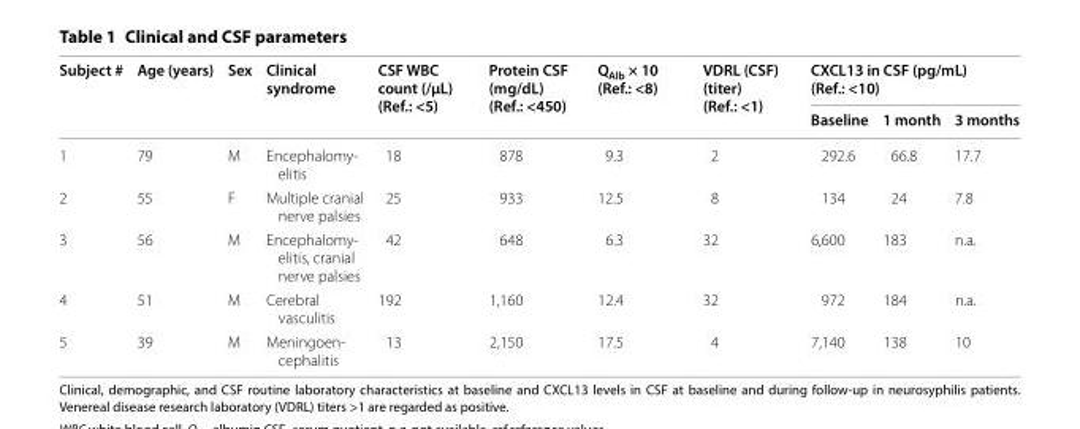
<table><thead><tr><td rowspan="2">Subject #</td><td rowspan="2">Age (years)</td><td rowspan="2">Sex</td><td rowspan="2">Clinical syndrome</td><td rowspan="2">CSF WBC count (/μL) (Ref.: &lt;5)</td><td rowspan="2">Protein CSF (mg/dL) (Ref.: &lt;450)</td><td rowspan="2">Q<sub>Alb</sub> × 10 (Ref.: &lt;8)</td><td rowspan="2">VDRL (CSF) (titer) (Ref.: &lt;1)</td><td colspan="3">CXCL13 in CSF (pg/mL) (Ref.: &lt;10)</td></tr><tr><td>Baseline</td><td>1 month</td><td>3 months</td></tr></thead><tbody><tr><td>1</td><td>79</td><td>M</td><td>Encephalomy‑ elitis</td><td>18</td><td>878</td><td>9.3</td><td>2</td><td>292.6</td><td>66.8</td><td>17.7</td></tr><tr><td>2</td><td>55</td><td>F</td><td>Multiple cranial nerve palsies</td><td>25</td><td>933</td><td>12.5</td><td>8</td><td>134</td><td>24</td><td>7.8</td></tr><tr><td>3</td><td>56</td><td>M</td><td>Encephalomy‑ elitis, cranial nerve palsies</td><td>42</td><td>648</td><td>6.3</td><td>32</td><td>6,600</td><td>183</td><td>n.a.</td></tr><tr><td>4</td><td>51</td><td>M</td><td>Cerebral vasculitis</td><td>192</td><td>1,160</td><td>12.4</td><td>32</td><td>972</td><td>184</td><td>n.a.</td></tr><tr><td>5</td><td>39</td><td>M</td><td>Meningoen‑ cephalitis</td><td>13</td><td>2,150</td><td>17.5</td><td>4</td><td>7,140</td><td>138</td><td>10</td></tr></tbody></table>